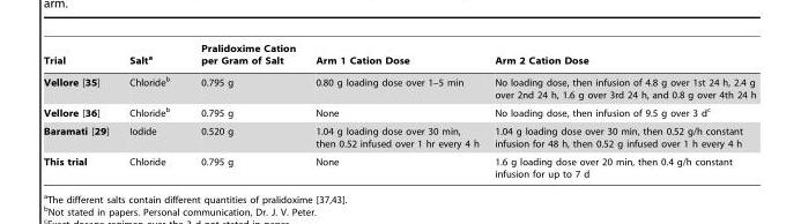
<table><thead><tr><td>Trial</td><td>Salt<sup>a</sup></td><td>Pralidoxime Cation per Gram of Salt</td><td>Arm 1 Cation Dose</td><td>Arm 2 Cation Dose</td></tr></thead><tbody><tr><td>Vellore [35]</td><td>Chloride<sup>b</sup></td><td>0.795 g</td><td>0.80 g loading dose over 1–5 min</td><td>No loading dose, then infusion of 4.8 g over 1st 24 h, 2.4 g over 2nd 24 h, 1.6 g over 3rd 24 h, and 0.8 g over 4th 24 h</td></tr><tr><td>Vellore [36]</td><td>Chloride<sup>b</sup></td><td>0.795 g</td><td>None</td><td>No loading dose, then infusion of 9.5 g over 3 d<sup>c</sup></td></tr><tr><td>Baramati [29]</td><td>Iodide</td><td>0.520 g</td><td>1.04 g loading dose over 30 min, then 0.52 infused over 1 hr every 4 h</td><td>1.04 g loading dose over 30 min, then 0.52 g/h constant infusion for 48 h, then 0.52 g infused over 1 h every 4 h</td></tr><tr><td>This trial</td><td>Chloride</td><td>0.795 g</td><td>None</td><td>1.6 g loading dose over 20 min, then 0.4 g/h constant infusion for up to 7 d</td></tr></tbody></table>